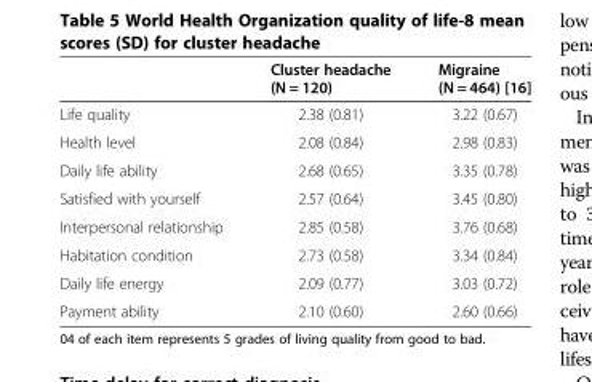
<table><thead><tr><td></td><td>Cluster headache (N = 120)</td><td>Migraine (N = 464) [16]</td></tr></thead><tbody><tr><td>Life quality</td><td>2.38 (0.81)</td><td>3.22 (0.67)</td></tr><tr><td>Health level</td><td>2.08 (0.84)</td><td>2.98 (0.83)</td></tr><tr><td>Daily life ability</td><td>2.68 (0.65)</td><td>3.35 (0.78)</td></tr><tr><td>Satisfied with yourself</td><td>2.57 (0.64)</td><td>3.45 (0.80)</td></tr><tr><td>Interpersonal relationship</td><td>2.85 (0.58)</td><td>3.76 (0.68)</td></tr><tr><td>Habitation condition</td><td>2.73 (0.58)</td><td>3.34 (0.84)</td></tr><tr><td>Daily life energy</td><td>2.09 (0.77)</td><td>3.03 (0.72)</td></tr><tr><td>Payment ability</td><td>2.10 (0.60)</td><td>2.60 (0.66)</td></tr></tbody></table>